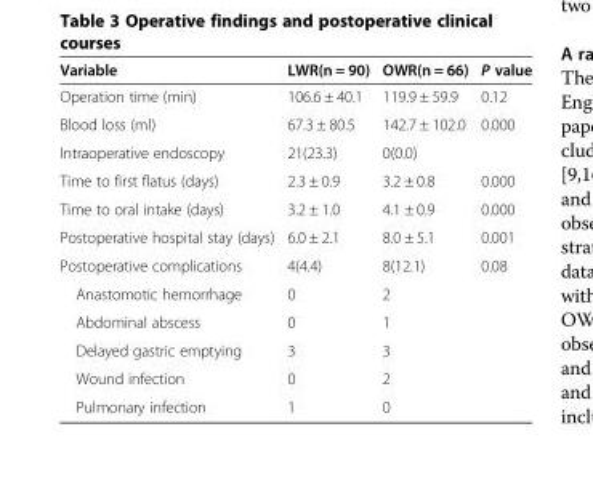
<table><thead><tr><td>Variable</td><td>LWR(n = 90)</td><td>OWR(n = 66)</td><td>P value</td></tr></thead><tbody><tr><td>Operation time (min)</td><td>106.6 ± 40.1</td><td>119.9 ± 59.9</td><td>0.12</td></tr><tr><td>Blood loss (ml)</td><td>67.3 ± 80.5</td><td>142.7 ± 102.0</td><td>0.000</td></tr><tr><td>Intraoperative endoscopy</td><td>21(23.3)</td><td>0(0.0)</td><td></td></tr><tr><td>Time to first flatus (days)</td><td>2.3 ± 0.9</td><td>3.2 ± 0.8</td><td>0.000</td></tr><tr><td>Time to oral intake (days)</td><td>3.2 ± 1.0</td><td>4.1 ± 0.9</td><td>0.000</td></tr><tr><td>Postoperative hospital stay (days)</td><td>6.0 ± 2.1</td><td>8.0 ± 5.1</td><td>0.001</td></tr><tr><td>Postoperative complications</td><td>4(4.4)</td><td>8(12.1)</td><td>0.08</td></tr><tr><td>Anastomotic hemorrhage</td><td>0</td><td>2</td><td></td></tr><tr><td>Abdominal abscess</td><td>0</td><td>1</td><td></td></tr><tr><td>Delayed gastric emptying</td><td>3</td><td>3</td><td></td></tr><tr><td>Wound infection</td><td>0</td><td>2</td><td></td></tr><tr><td>Pulmonary infection</td><td>1</td><td>0</td><td></td></tr></tbody></table>